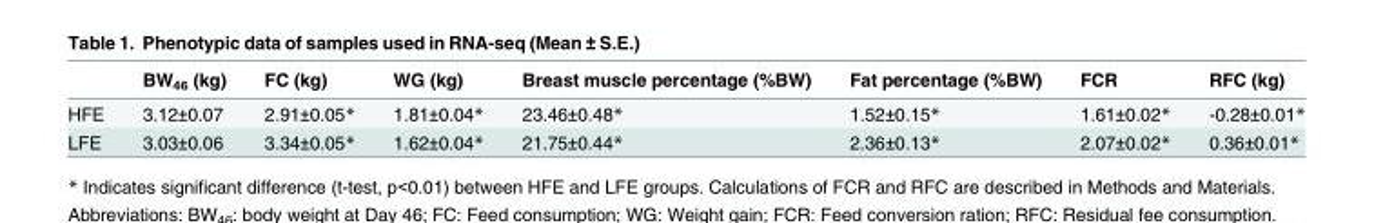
<table><thead><tr><td></td><td>BW<sub>46</sub> (kg)</td><td>FC (kg)</td><td>WG (kg)</td><td>Breast muscle percentage (%BW)</td><td>Fat percentage (%BW)</td><td>FCR</td><td>RFC (kg)</td></tr></thead><tbody><tr><td>HFE</td><td>3.12±0.07</td><td>2.91±0.05*</td><td>1.81±0.04*</td><td>23.46±0.48*</td><td>1.52±0.15*</td><td>1.61±0.02*</td><td>-0.28±0.01*</td></tr><tr><td>LFE</td><td>3.03±0.06</td><td>3.34±0.05*</td><td>1.62±0.04*</td><td>21.75±0.44*</td><td>2.36±0.13*</td><td>2.07±0.02*</td><td>0.36±0.01*</td></tr></tbody></table>